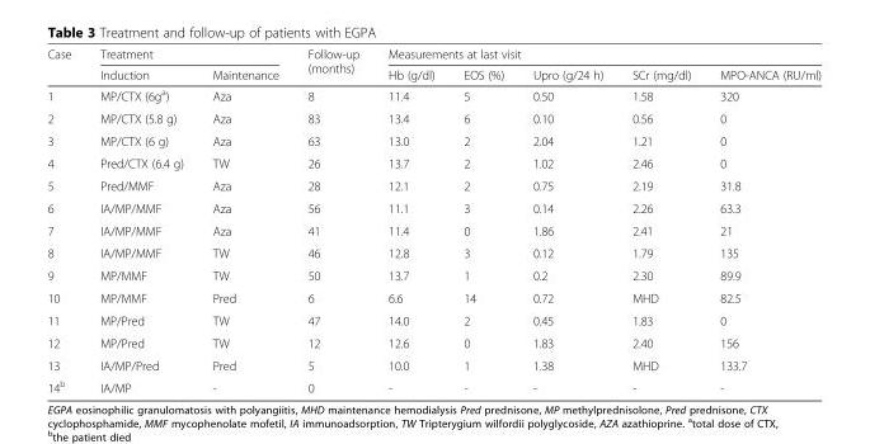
<table><thead><tr><td rowspan="2">Case</td><td colspan="2">Treatment</td><td rowspan="2">Follow-up (months)</td><td colspan="5">Measurements at last visit</td></tr><tr><td>Induction</td><td>Maintenance</td><td>Hb (g/dl)</td><td>EOS (%)</td><td>Upro (g/24 h)</td><td>SCr (mg/dl)</td><td>MPO-ANCA (RU/ml)</td></tr></thead><tbody><tr><td>1</td><td>MP/CTX (6g<sup>a</sup>)</td><td>Aza</td><td>8</td><td>11.4</td><td>5</td><td>0.50</td><td>1.58</td><td>320</td></tr><tr><td>2</td><td>MP/CTX (5.8 g)</td><td>Aza</td><td>83</td><td>13.4</td><td>6</td><td>0.10</td><td>0.56</td><td>0</td></tr><tr><td>3</td><td>MP/CTX (6 g)</td><td>Aza</td><td>63</td><td>13.0</td><td>2</td><td>2.04</td><td>1.21</td><td>0</td></tr><tr><td>4</td><td>Pred/CTX (6.4 g)</td><td>TW</td><td>26</td><td>13.7</td><td>2</td><td>1.02</td><td>2.46</td><td>0</td></tr><tr><td>5</td><td>Pred/MMF</td><td>Aza</td><td>28</td><td>12.1</td><td>2</td><td>0.75</td><td>2.19</td><td>31.8</td></tr><tr><td>6</td><td>IA/MP/MMF</td><td>Aza</td><td>56</td><td>11.1</td><td>3</td><td>0.14</td><td>2.26</td><td>63.3</td></tr><tr><td>7</td><td>IA/MP/MMF</td><td>Aza</td><td>41</td><td>11.4</td><td>0</td><td>1.86</td><td>2.41</td><td>21</td></tr><tr><td>8</td><td>IA/MP/MMF</td><td>TW</td><td>46</td><td>12.8</td><td>3</td><td>0.12</td><td>1.79</td><td>135</td></tr><tr><td>9</td><td>MP/MMF</td><td>TW</td><td>50</td><td>13.7</td><td>1</td><td>0.2</td><td>2.30</td><td>89.9</td></tr><tr><td>10</td><td>MP/MMF</td><td>Pred</td><td>6</td><td>6.6</td><td>14</td><td>0.72</td><td>MHD</td><td>82.5</td></tr><tr><td>11</td><td>MP/Pred</td><td>TW</td><td>47</td><td>14.0</td><td>2</td><td>0.45</td><td>1.83</td><td>0</td></tr><tr><td>12</td><td>MP/Pred</td><td>TW</td><td>12</td><td>12.6</td><td>0</td><td>1.83</td><td>2.40</td><td>156</td></tr><tr><td>13</td><td>IA/MP/Pred</td><td>Pred</td><td>5</td><td>10.0</td><td>1</td><td>1.38</td><td>MHD</td><td>133.7</td></tr><tr><td>14<sup>b</sup></td><td>IA/MP</td><td>-</td><td>0</td><td>-</td><td>-</td><td>-</td><td>-</td><td>-</td></tr></tbody></table>